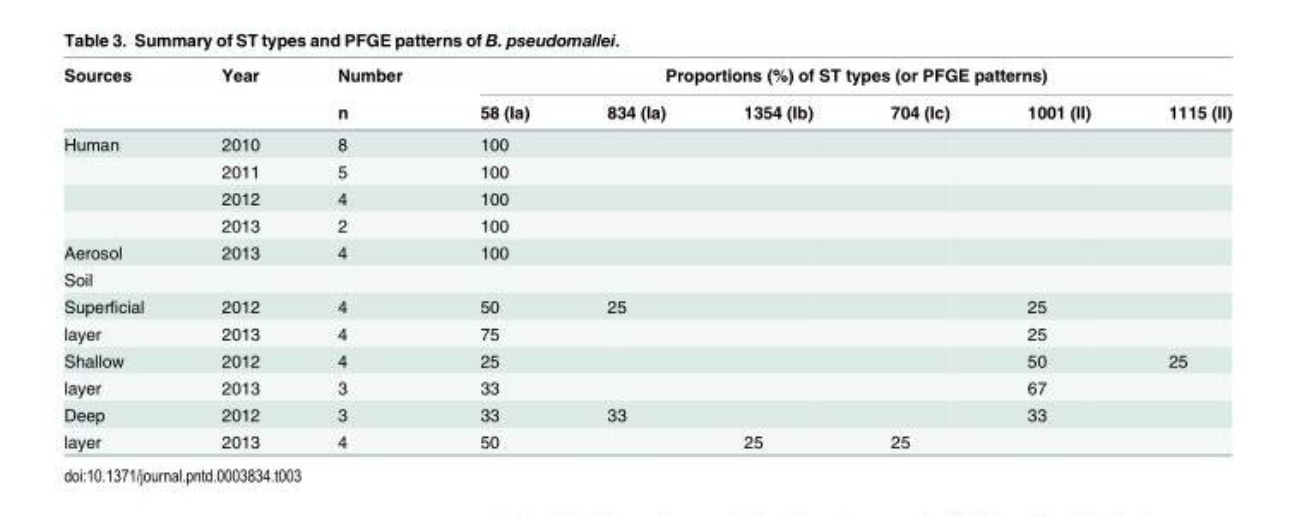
<table><thead><tr><td rowspan="2">Sources</td><td rowspan="2">Year</td><td rowspan="2">Number n</td><td colspan="6">Proportions (%) of ST types (or PFGE patterns)</td></tr><tr><td>58 (Ia)</td><td>834 (Ia)</td><td>1354 (Ib)</td><td>704 (Ic)</td><td>1001 (II)</td><td>1115 (II)</td></tr></thead><tbody><tr><td rowspan="4">Human</td><td>2010</td><td>8</td><td>100</td><td></td><td></td><td></td><td></td><td></td></tr><tr><td>2011</td><td>5</td><td>100</td><td></td><td></td><td></td><td></td><td></td></tr><tr><td>2012</td><td>4</td><td>100</td><td></td><td></td><td></td><td></td><td></td></tr><tr><td>2013</td><td>2</td><td>100</td><td></td><td></td><td></td><td></td><td></td></tr><tr><td>Aerosol</td><td>2013</td><td>4</td><td>100</td><td></td><td></td><td></td><td></td><td></td></tr><tr><td colspan="9">Soil</td></tr><tr><td>Superficial</td><td>2012</td><td>4</td><td>50</td><td>25</td><td></td><td></td><td>25</td><td></td></tr><tr><td>layer</td><td>2013</td><td>4</td><td>75</td><td></td><td></td><td></td><td>25</td><td></td></tr><tr><td>Shallow</td><td>2012</td><td>4</td><td>25</td><td></td><td></td><td></td><td>50</td><td>25</td></tr><tr><td>layer</td><td>2013</td><td>3</td><td>33</td><td></td><td></td><td></td><td>67</td><td></td></tr><tr><td>Deep</td><td>2012</td><td>3</td><td>33</td><td>33</td><td></td><td></td><td>33</td><td></td></tr><tr><td>layer</td><td>2013</td><td>4</td><td>50</td><td></td><td>25</td><td>25</td><td></td><td></td></tr></tbody></table>